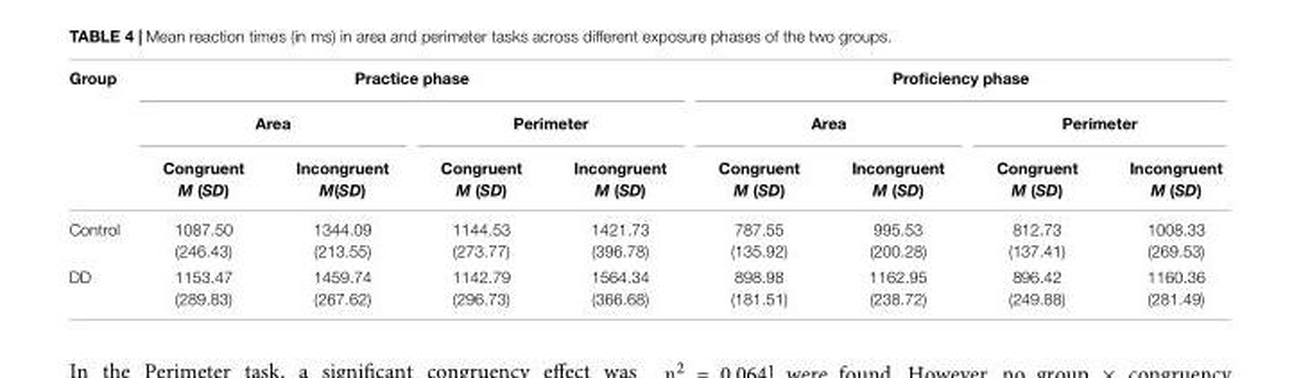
<table><thead><tr><td rowspan="3">Group</td><td colspan="4">Practice phase</td><td colspan="4">Proficiency phase</td></tr><tr><td colspan="2">Area</td><td colspan="2">Perimeter</td><td colspan="2">Area</td><td colspan="2">Perimeter</td></tr><tr><td>Congruent M (SD)</td><td>Incongruent M(SD)</td><td>Congruent M (SD)</td><td>Incongruent M (SD)</td><td>Congruent M (SD)</td><td>Incongruent M (SD)</td><td>Congruent M (SD)</td><td>Incongruent M (SD)</td></tr></thead><tbody><tr><td>Control</td><td>1087.50 (246.43)</td><td>1344.09 (213.55)</td><td>1144.53 (273.77)</td><td>1421.73 (396.78)</td><td>787.55 (135.92)</td><td>995.53 (200.28)</td><td>812.73 (137.41)</td><td>1008.33 (269.53)</td></tr><tr><td>DD</td><td>1153.47 (289.83)</td><td>1459.74 (267.62)</td><td>1142.79 (296.73)</td><td>1564.34 (366.68)</td><td>898.98 (181.51)</td><td>1162.95 (238.72)</td><td>896.42 (249.88)</td><td>1160.36 (281.49)</td></tr></tbody></table>